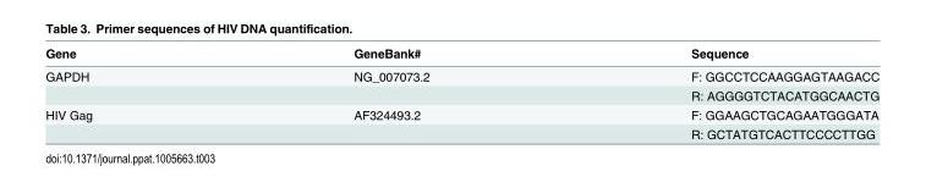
<table><thead><tr><td>Gene</td><td>GeneBank#</td><td>Sequence</td></tr></thead><tbody><tr><td rowspan="2">GAPDH</td><td>NG_007073.2</td><td>F: GGCCTCCAAGGAGTAAGACC</td></tr><tr><td></td><td>R: AGGGGTCTACATGGCAACTG</td></tr><tr><td rowspan="2">HIV Gag</td><td>AF324493.2</td><td>F: GGAAGCTGCAGAATGGGATA</td></tr><tr><td></td><td>R: GCTATGTCACTTCCCCTTGG</td></tr></tbody></table>